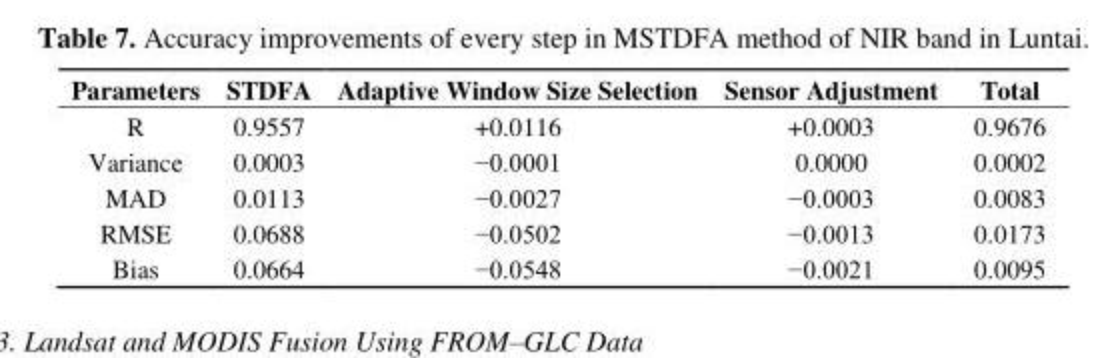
<table><thead><tr><td>Parameters</td><td>STDFA</td><td>Adaptive Window Size Selection</td><td>Sensor Adjustment</td><td>Total</td></tr></thead><tbody><tr><td>R</td><td>0.9557</td><td>+0.0116</td><td>+0.0003</td><td>0.9676</td></tr><tr><td>Variance</td><td>0.0003</td><td>−0.0001</td><td>0.0000</td><td>0.0002</td></tr><tr><td>MAD</td><td>0.0113</td><td>−0.0027</td><td>−0.0003</td><td>0.0083</td></tr><tr><td>RMSE</td><td>0.0688</td><td>−0.0502</td><td>−0.0013</td><td>0.0173</td></tr><tr><td>Bias</td><td>0.0664</td><td>−0.0548</td><td>−0.0021</td><td>0.0095</td></tr></tbody></table>